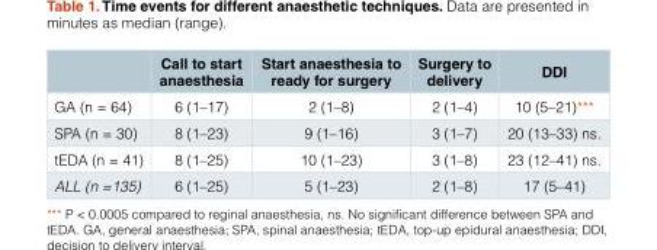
<table><thead><tr><td></td><td>Call to start anaesthesia</td><td>Start anaesthesia to ready for surgery</td><td>Surgery to delivery</td><td>DDI</td></tr></thead><tbody><tr><td>GA (n = 64)</td><td>6 (1–17)</td><td>2 (1–8)</td><td>2 (1–4)</td><td>10 (5–21)***</td></tr><tr><td>SPA (n = 30)</td><td>8 (1–23)</td><td>9 (1–16)</td><td>3 (1–7)</td><td>20 (13–33) ns.</td></tr><tr><td>tEDA (n = 41)</td><td>8 (1–25)</td><td>10 (1–23)</td><td>3 (1–8)</td><td>23 (12–41) ns.</td></tr><tr><td>ALL (n =135)</td><td>6 (1–25)</td><td>5 (1–23)</td><td>2 (1–8)</td><td>17 (5–41)</td></tr></tbody></table>